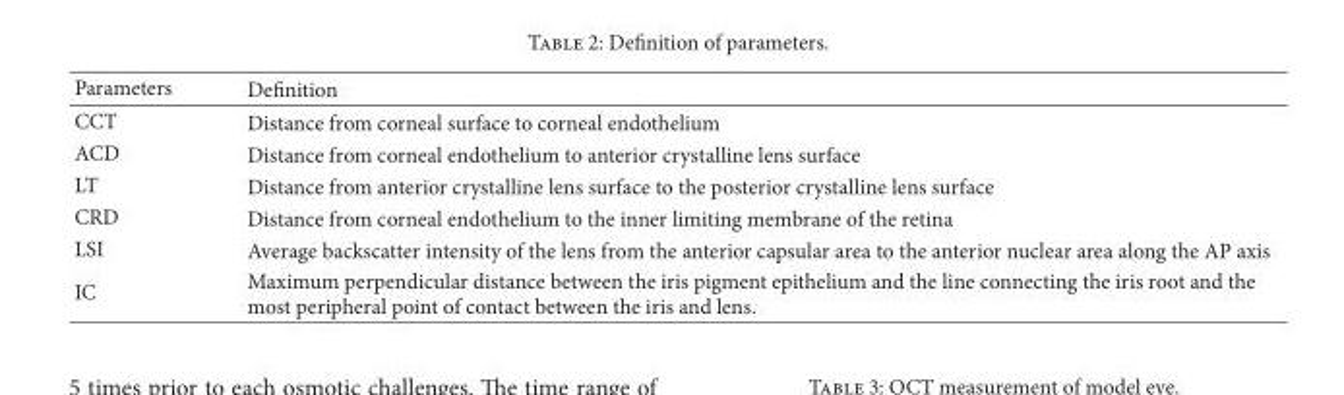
<table><thead><tr><td>Parameters</td><td>Definition</td></tr></thead><tbody><tr><td>CCT</td><td>Distance from corneal surface to corneal endothelium</td></tr><tr><td>ACD</td><td>Distance from corneal endothelium to anterior crystalline lens surface</td></tr><tr><td>LT</td><td>Distance from anterior crystalline lens surface to the posterior crystalline lens surface</td></tr><tr><td>CRD</td><td>Distance from corneal endothelium to the inner limiting membrane of the retina</td></tr><tr><td>LSI</td><td>Average backscatter intensity of the lens from the anterior capsular area to the anterior nuclear area along the AP axis</td></tr><tr><td>IC</td><td>Maximum perpendicular distance between the iris pigment epithelium and the line connecting the iris root and the most peripheral point of contact between the iris and lens.</td></tr></tbody></table>